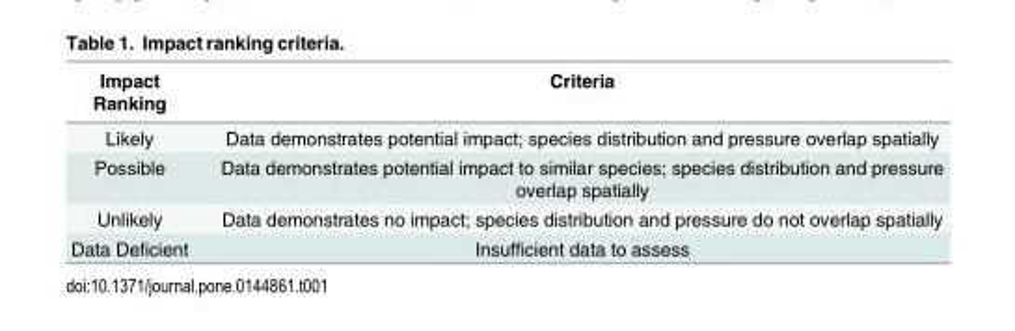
<table><thead><tr><td>Impact Ranking</td><td>Criteria</td></tr></thead><tbody><tr><td>Likely</td><td>Data demonstrates potential impact; species distribution and pressure overlap spatially</td></tr><tr><td>Possible</td><td>Data demonstrates potential impact to similar species; species distribution and pressure overlap spatially</td></tr><tr><td>Unlikely</td><td>Data demonstrates no impact; species distribution and pressure do not overlap spatially</td></tr><tr><td>Data Deficient</td><td>Insufficient data to assess</td></tr></tbody></table>